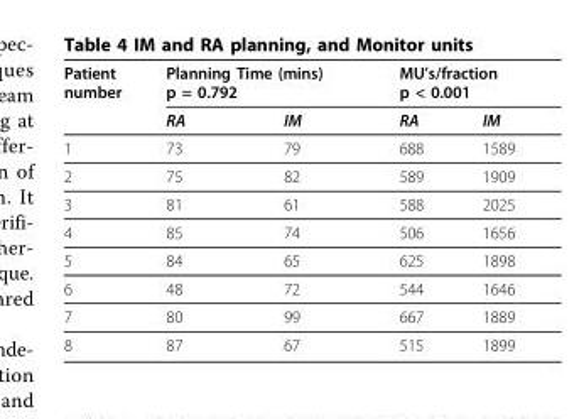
<table><thead><tr><td rowspan="2">Patient number</td><td colspan="2">Planning Time (mins) p = 0.792</td><td colspan="2">MU’s/fraction p &lt; 0.001</td></tr><tr><td>RA</td><td>IM</td><td>RA</td><td>IM</td></tr></thead><tbody><tr><td>1</td><td>73</td><td>79</td><td>688</td><td>1589</td></tr><tr><td>2</td><td>75</td><td>82</td><td>589</td><td>1909</td></tr><tr><td>3</td><td>81</td><td>61</td><td>588</td><td>2025</td></tr><tr><td>4</td><td>85</td><td>74</td><td>506</td><td>1656</td></tr><tr><td>5</td><td>84</td><td>65</td><td>625</td><td>1898</td></tr><tr><td>6</td><td>48</td><td>72</td><td>544</td><td>1646</td></tr><tr><td>7</td><td>80</td><td>99</td><td>667</td><td>1889</td></tr><tr><td>8</td><td>87</td><td>67</td><td>515</td><td>1899</td></tr></tbody></table>